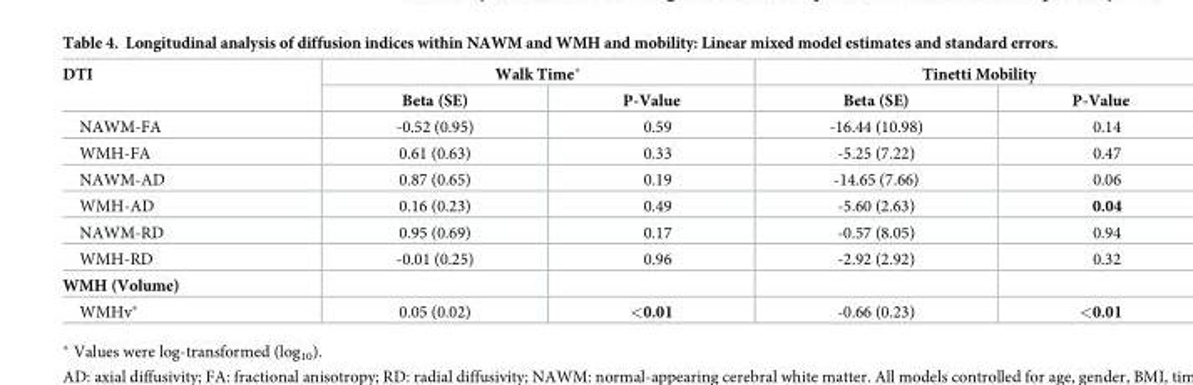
<table><thead><tr><td rowspan="2">DTI</td><td colspan="2">Walk Time*</td><td colspan="2">Tinetti Mobility</td></tr><tr><td>Beta (SE)</td><td>P-Value</td><td>Beta (SE)</td><td>P-Value</td></tr></thead><tbody><tr><td>NAWM-FA</td><td>-0.52 (0.95)</td><td>0.59</td><td>-16.44 (10.98)</td><td>0.14</td></tr><tr><td>WMH-FA</td><td>0.61 (0.63)</td><td>0.33</td><td>-5.25 (7.22)</td><td>0.47</td></tr><tr><td>NAWM-AD</td><td>0.87 (0.65)</td><td>0.19</td><td>-14.65 (7.66)</td><td>0.06</td></tr><tr><td>WMH-AD</td><td>0.16 (0.23)</td><td>0.49</td><td>-5.60 (2.63)</td><td>0.04</td></tr><tr><td>NAWM-RD</td><td>0.95 (0.69)</td><td>0.17</td><td>-0.57 (8.05)</td><td>0.94</td></tr><tr><td>WMH-RD</td><td>-0.01 (0.25)</td><td>0.96</td><td>-2.92 (2.92)</td><td>0.32</td></tr><tr><td colspan="5">WMH (Volume)</td></tr><tr><td>WMHv*</td><td>0.05 (0.02)</td><td>&lt;0.01</td><td>-0.66 (0.23)</td><td>&lt;0.01</td></tr></tbody></table>